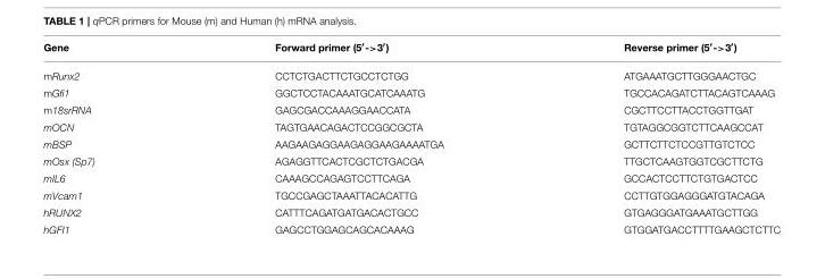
<table><thead><tr><td>Gene</td><td>Forward primer (5′-&gt;3′)</td><td>Reverse primer (5′-&gt;3′)</td></tr></thead><tbody><tr><td>mRunx2</td><td>CCTCTGACTTCTGCCTCTGG</td><td>ATGAAATGCTTGGGAACTGC</td></tr><tr><td>mGfi1</td><td>GGCTCCTACAAATGCATCAAATG</td><td>TGCCACAGATCTTACAGTCAAAG</td></tr><tr><td>m18srRNA</td><td>GAGCGACCAAAGGAACCATA</td><td>CGCTTCCTTACCTGGTTGAT</td></tr><tr><td>mOCN</td><td>TAGTGAACAGACTCCGGCGCTA</td><td>TGTAGGCGGTCTTCAAGCCAT</td></tr><tr><td>mBSP</td><td>AAGAAGAGGAAGAGGAAGAAAATGA</td><td>GCTTCTTCTCCGTTGTCTCC</td></tr><tr><td>mOsx (Sp7)</td><td>AGAGGTTCACTCGCTCTGACGA</td><td>TTGCTCAAGTGGTCGCTTCTG</td></tr><tr><td>mIL6</td><td>CAAAGCCAGAGTCCTTCAGA</td><td>GCCACTCCTTCTGTGACTCC</td></tr><tr><td>mVcam1</td><td>TGCCGAGCTAAATTACACATTG</td><td>CCTTGTGGAGGGATGTACAGA</td></tr><tr><td>hRUNX2</td><td>CATTTCAGATGATGACACTGCC</td><td>GTGAGGGATGAAATGCTTGG</td></tr><tr><td>hGFI1</td><td>GAGCCTGGAGCAGCACAAAG</td><td>GTGGATGACCTTTTGAAGCTCTTC</td></tr></tbody></table>